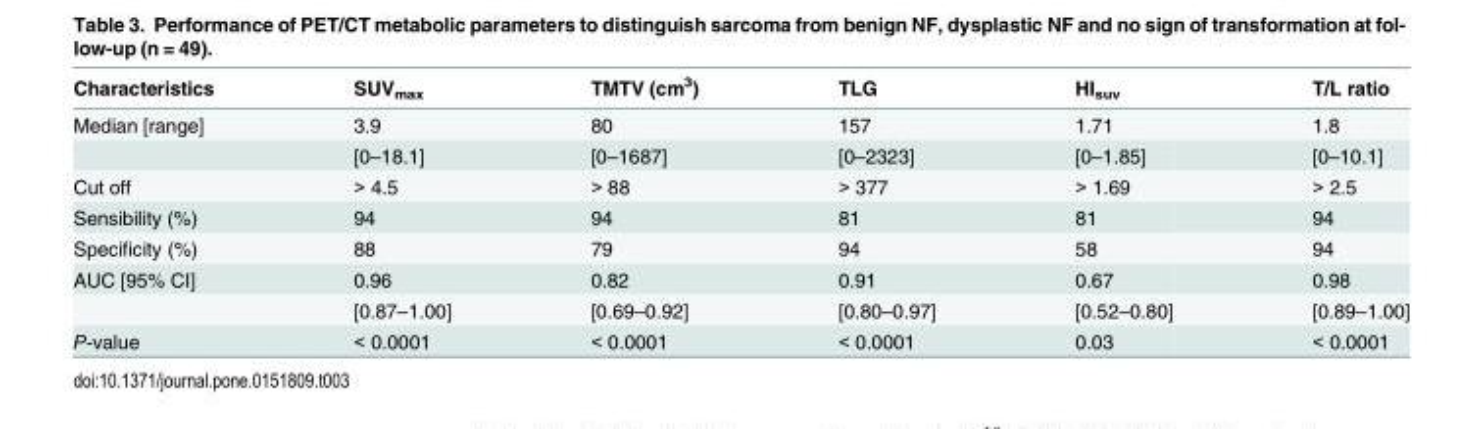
<table><thead><tr><td>Characteristics</td><td>SUV<sub>max</sub></td><td>TMTV (cm<sup>3</sup>)</td><td>TLG</td><td>HI<sub>suv</sub></td><td>T/L ratio</td></tr></thead><tbody><tr><td rowspan="2">Median [range]</td><td>3.9</td><td>80</td><td>157</td><td>1.71</td><td>1.8</td></tr><tr><td>[0–18.1]</td><td>[0–1687]</td><td>[0–2323]</td><td>[0–1.85]</td><td>[0–10.1]</td></tr><tr><td>Cut off</td><td>&gt; 4.5</td><td>&gt; 88</td><td>&gt; 377</td><td>&gt; 1.69</td><td>&gt; 2.5</td></tr><tr><td>Sensibility (%)</td><td>94</td><td>94</td><td>81</td><td>81</td><td>94</td></tr><tr><td>Specificity (%)</td><td>88</td><td>79</td><td>94</td><td>58</td><td>94</td></tr><tr><td rowspan="2">AUC [95% CI]</td><td>0.96</td><td>0.82</td><td>0.91</td><td>0.67</td><td>0.98</td></tr><tr><td>[0.87–1.00]</td><td>[0.69–0.92]</td><td>[0.80–0.97]</td><td>[0.52–0.80]</td><td>[0.89–1.00]</td></tr><tr><td>P-value</td><td>&lt; 0.0001</td><td>&lt; 0.0001</td><td>&lt; 0.0001</td><td>0.03</td><td>&lt; 0.0001</td></tr></tbody></table>